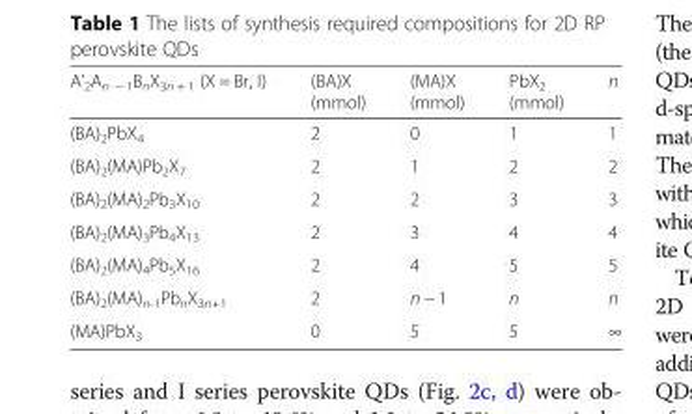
<table><thead><tr><td>A’<sub>2</sub>A<sub>n − 1</sub>B<sub>n</sub>X<sub>3n + 1</sub> (X = Br, I)</td><td>(BA)X (mmol)</td><td>(MA)X (mmol)</td><td>PbX<sub>2</sub> (mmol)</td><td>n</td></tr></thead><tbody><tr><td>(BA)<sub>2</sub>PbX<sub>4</sub></td><td>2</td><td>0</td><td>1</td><td>1</td></tr><tr><td>(BA)<sub>2</sub>(MA)Pb<sub>2</sub>X<sub>7</sub></td><td>2</td><td>1</td><td>2</td><td>2</td></tr><tr><td>(BA)<sub>2</sub>(MA)<sub>2</sub>Pb<sub>3</sub>X<sub>10</sub></td><td>2</td><td>2</td><td>3</td><td>3</td></tr><tr><td>(BA)<sub>2</sub>(MA)<sub>3</sub>Pb<sub>4</sub>X<sub>13</sub></td><td>2</td><td>3</td><td>4</td><td>4</td></tr><tr><td>(BA)<sub>2</sub>(MA)<sub>4</sub>Pb<sub>5</sub>X<sub>16</sub></td><td>2</td><td>4</td><td>5</td><td>5</td></tr><tr><td>(BA)<sub>2</sub>(MA)<sub>n-1</sub>Pb<sub>n</sub>X<sub>3n+1</sub></td><td>2</td><td>n − 1</td><td>n</td><td>n</td></tr><tr><td>(MA)PbX<sub>3</sub></td><td>0</td><td>5</td><td>5</td><td>∞</td></tr></tbody></table>